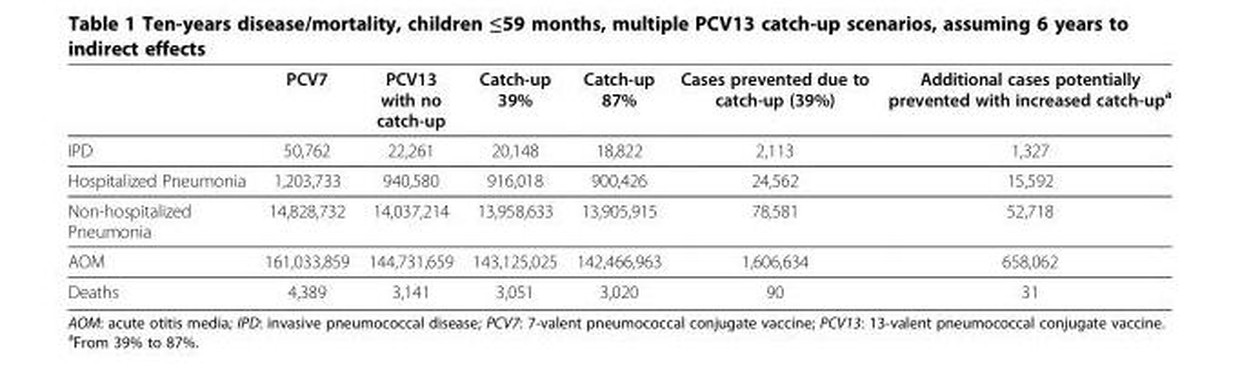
<table><thead><tr><td></td><td>PCV7</td><td>PCV13 with no catch-up</td><td>Catch-up 39%</td><td>Catch-up 87%</td><td>Cases prevented due to catch-up (39%)</td><td>Additional cases potentially prevented with increased catch-up<sup>a</sup></td></tr></thead><tbody><tr><td>IPD</td><td>50,762</td><td>22,261</td><td>20,148</td><td>18,822</td><td>2,113</td><td>1,327</td></tr><tr><td>Hospitalized Pneumonia</td><td>1,203,733</td><td>940,580</td><td>916,018</td><td>900,426</td><td>24,562</td><td>15,592</td></tr><tr><td>Non-hospitalized Pneumonia</td><td>14,828,732</td><td>14,037,214</td><td>13,958,633</td><td>13,905,915</td><td>78,581</td><td>52,718</td></tr><tr><td>AOM</td><td>161,033,859</td><td>144,731,659</td><td>143,125,025</td><td>142,466,963</td><td>1,606,634</td><td>658,062</td></tr><tr><td>Deaths</td><td>4,389</td><td>3,141</td><td>3,051</td><td>3,020</td><td>90</td><td>31</td></tr></tbody></table>